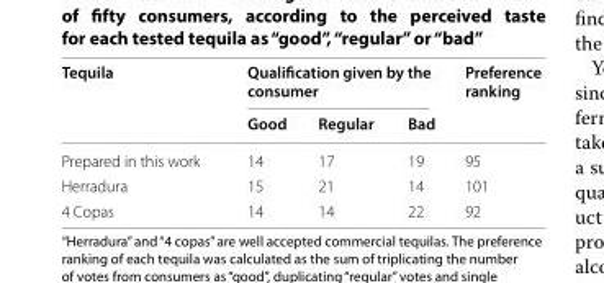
<table><thead><tr><td rowspan="2">Tequila</td><td colspan="3">Qualification given by the consumer</td><td rowspan="2">Preference ranking</td></tr><tr><td>Good</td><td>Regular</td><td>Bad</td></tr></thead><tbody><tr><td>Prepared in this work</td><td>14</td><td>17</td><td>19</td><td>95</td></tr><tr><td>Herradura</td><td>15</td><td>21</td><td>14</td><td>101</td></tr><tr><td>4 Copas</td><td>14</td><td>14</td><td>22</td><td>92</td></tr></tbody></table>